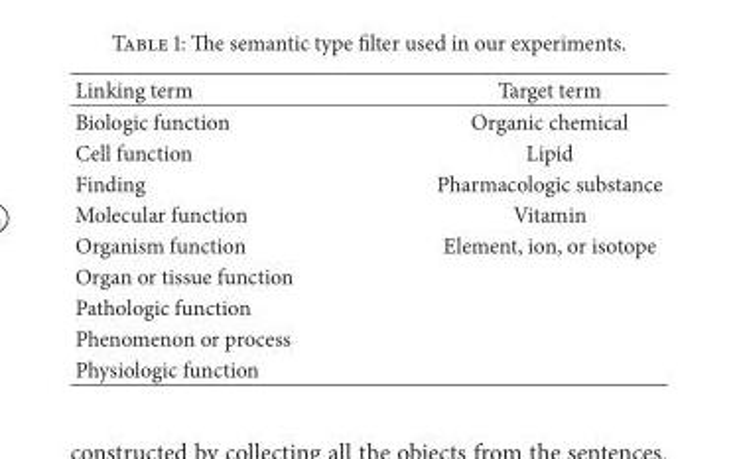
<table><thead><tr><td>Linking term</td><td>Target term</td></tr></thead><tbody><tr><td>Biologic function</td><td>Organic chemical</td></tr><tr><td>Cell function</td><td>Lipid</td></tr><tr><td>Finding</td><td>Pharmacologic substance</td></tr><tr><td>Molecular function</td><td>Vitamin</td></tr><tr><td>Organism function</td><td>Element, ion, or isotope</td></tr><tr><td colspan="2">Organ or tissue function</td></tr><tr><td colspan="2">Pathologic function</td></tr><tr><td colspan="2">Phenomenon or process</td></tr><tr><td>Physiologic function</td><td></td></tr></tbody></table>